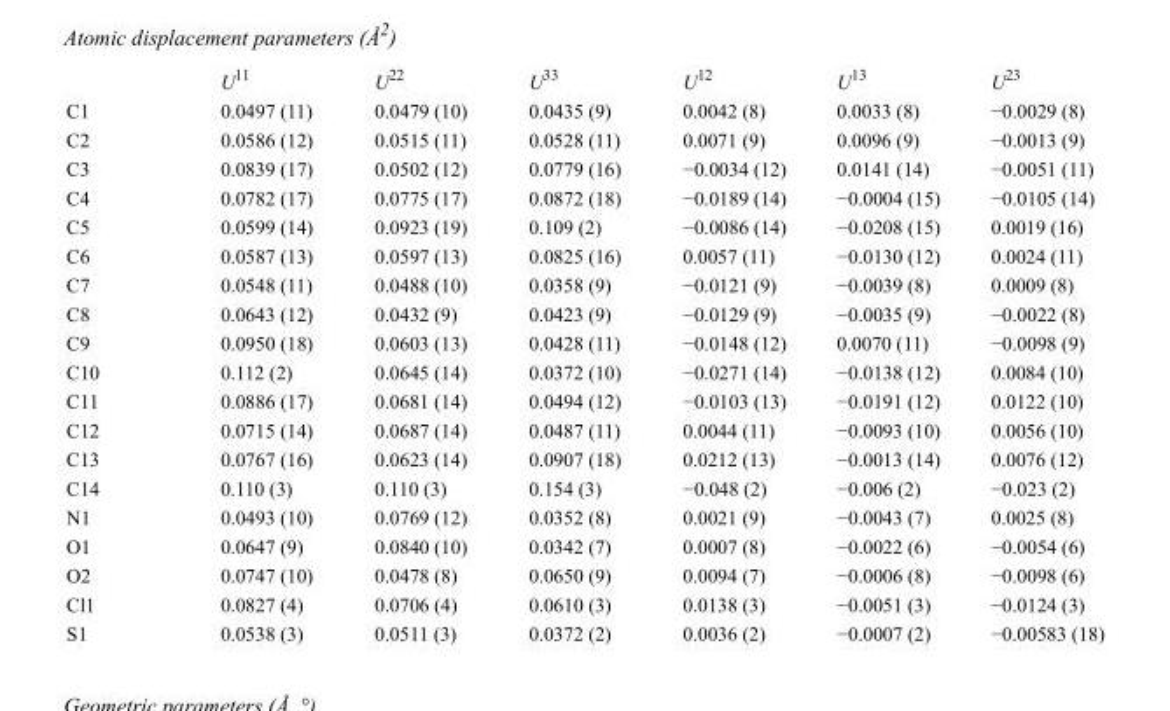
<table><thead><tr><td></td><td>U<sup>11</sup></td><td>U<sup>22</sup></td><td>U<sup>33</sup></td><td>U<sup>12</sup></td><td>U<sup>13</sup></td><td>U<sup>23</sup></td></tr></thead><tbody><tr><td>C1</td><td>0.0497 (11)</td><td>0.0479 (10)</td><td>0.0435 (9)</td><td>0.0042 (8)</td><td>0.0033 (8)</td><td>−0.0029 (8)</td></tr><tr><td>C2</td><td>0.0586 (12)</td><td>0.0515 (11)</td><td>0.0528 (11)</td><td>0.0071 (9)</td><td>0.0096 (9)</td><td>−0.0013 (9)</td></tr><tr><td>C3</td><td>0.0839 (17)</td><td>0.0502 (12)</td><td>0.0779 (16)</td><td>−0.0034 (12)</td><td>0.0141 (14)</td><td>−0.0051 (11)</td></tr><tr><td>C4</td><td>0.0782 (17)</td><td>0.0775 (17)</td><td>0.0872 (18)</td><td>−0.0189 (14)</td><td>−0.0004 (15)</td><td>−0.0105 (14)</td></tr><tr><td>C5</td><td>0.0599 (14)</td><td>0.0923 (19)</td><td>0.109 (2)</td><td>−0.0086 (14)</td><td>−0.0208 (15)</td><td>0.0019 (16)</td></tr><tr><td>C6</td><td>0.0587 (13)</td><td>0.0597 (13)</td><td>0.0825 (16)</td><td>0.0057 (11)</td><td>−0.0130 (12)</td><td>0.0024 (11)</td></tr><tr><td>C7</td><td>0.0548 (11)</td><td>0.0488 (10)</td><td>0.0358 (9)</td><td>−0.0121 (9)</td><td>−0.0039 (8)</td><td>0.0009 (8)</td></tr><tr><td>C8</td><td>0.0643 (12)</td><td>0.0432 (9)</td><td>0.0423 (9)</td><td>−0.0129 (9)</td><td>−0.0035 (9)</td><td>−0.0022 (8)</td></tr><tr><td>C9</td><td>0.0950 (18)</td><td>0.0603 (13)</td><td>0.0428 (11)</td><td>−0.0148 (12)</td><td>0.0070 (11)</td><td>−0.0098 (9)</td></tr><tr><td>C10</td><td>0.112 (2)</td><td>0.0645 (14)</td><td>0.0372 (10)</td><td>−0.0271 (14)</td><td>−0.0138 (12)</td><td>0.0084 (10)</td></tr><tr><td>C11</td><td>0.0886 (17)</td><td>0.0681 (14)</td><td>0.0494 (12)</td><td>−0.0103 (13)</td><td>−0.0191 (12)</td><td>0.0122 (10)</td></tr><tr><td>C12</td><td>0.0715 (14)</td><td>0.0687 (14)</td><td>0.0487 (11)</td><td>0.0044 (11)</td><td>−0.0093 (10)</td><td>0.0056 (10)</td></tr><tr><td>C13</td><td>0.0767 (16)</td><td>0.0623 (14)</td><td>0.0907 (18)</td><td>0.0212 (13)</td><td>−0.0013 (14)</td><td>0.0076 (12)</td></tr><tr><td>C14</td><td>0.110 (3)</td><td>0.110 (3)</td><td>0.154 (3)</td><td>−0.048 (2)</td><td>−0.006 (2)</td><td>−0.023 (2)</td></tr><tr><td>N1</td><td>0.0493 (10)</td><td>0.0769 (12)</td><td>0.0352 (8)</td><td>0.0021 (9)</td><td>−0.0043 (7)</td><td>0.0025 (8)</td></tr><tr><td>O1</td><td>0.0647 (9)</td><td>0.0840 (10)</td><td>0.0342 (7)</td><td>0.0007 (8)</td><td>−0.0022 (6)</td><td>−0.0054 (6)</td></tr><tr><td>O2</td><td>0.0747 (10)</td><td>0.0478 (8)</td><td>0.0650 (9)</td><td>0.0094 (7)</td><td>−0.0006 (8)</td><td>−0.0098 (6)</td></tr><tr><td>Cl1</td><td>0.0827 (4)</td><td>0.0706 (4)</td><td>0.0610 (3)</td><td>0.0138 (3)</td><td>−0.0051 (3)</td><td>−0.0124 (3)</td></tr><tr><td>S1</td><td>0.0538 (3)</td><td>0.0511 (3)</td><td>0.0372 (2)</td><td>0.0036 (2)</td><td>−0.0007 (2)</td><td>−0.00583 (18)</td></tr></tbody></table>